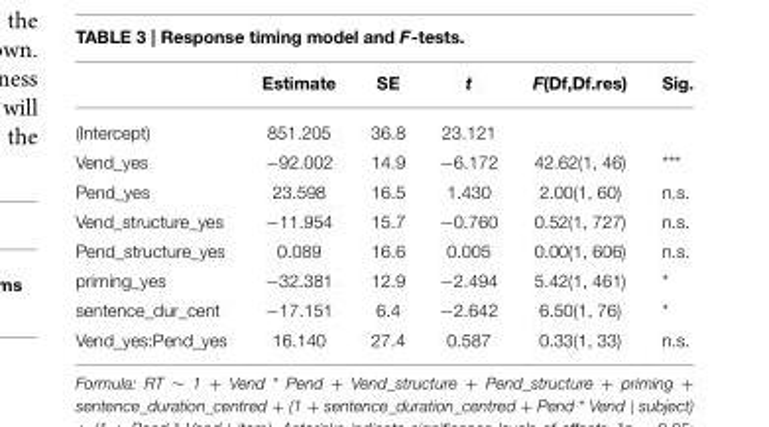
<table><thead><tr><td></td><td>Estimate</td><td>SE</td><td>t</td><td>F(Df,Df.res)</td><td>Sig.</td></tr></thead><tbody><tr><td>(Intercept)</td><td>851.205</td><td>36.8</td><td>23.121</td><td></td><td></td></tr><tr><td>Vend_yes</td><td>−92.002</td><td>14.9</td><td>−6.172</td><td>42.62(1, 46)</td><td>***</td></tr><tr><td>Pend_yes</td><td>23.598</td><td>16.5</td><td>1.430</td><td>2.00(1, 60)</td><td>n.s.</td></tr><tr><td>Vend_structure_yes</td><td>−11.954</td><td>15.7</td><td>−0.760</td><td>0.52(1, 727)</td><td>n.s.</td></tr><tr><td>Pend_structure_yes</td><td>0.089</td><td>16.6</td><td>0.005</td><td>0.00(1, 606)</td><td>n.s.</td></tr><tr><td>priming_yes</td><td>−32.381</td><td>12.9</td><td>−2.494</td><td>5.42(1, 461)</td><td>*</td></tr><tr><td>sentence_dur_cent</td><td>−17.151</td><td>6.4</td><td>−2.642</td><td>6.50(1, 76)</td><td>*</td></tr><tr><td>Vend_yes:Pend_yes</td><td>16.140</td><td>27.4</td><td>0.587</td><td>0.33(1, 33)</td><td>n.s.</td></tr></tbody></table>